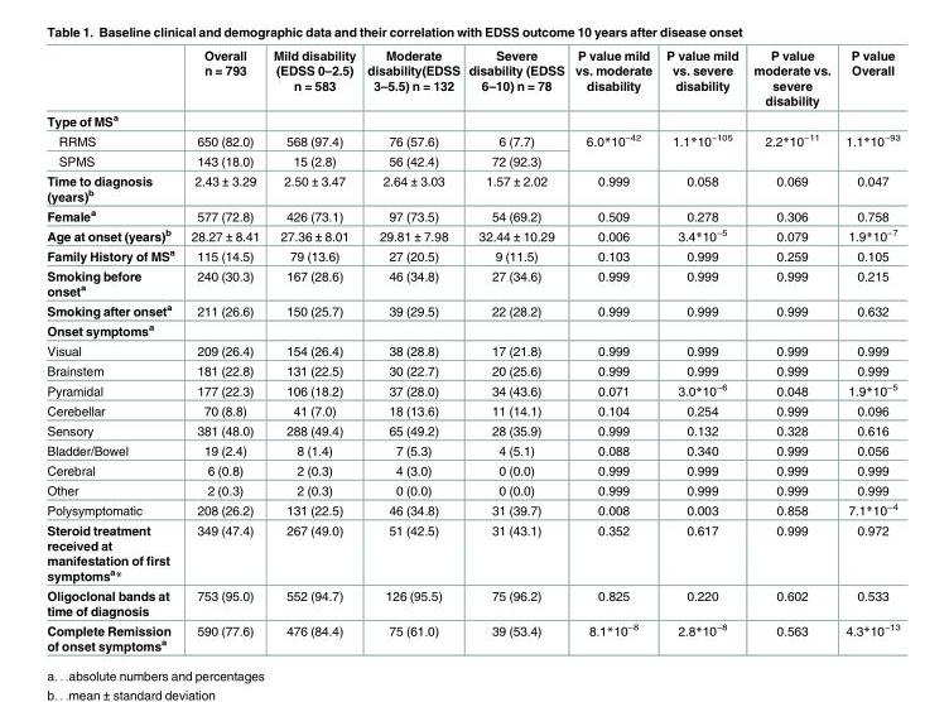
<table><thead><tr><td></td><td>Overall n = 793</td><td>Mild disability (EDSS 0–2.5) n = 583</td><td>Moderate disability(EDSS 3–5.5) n = 132</td><td>Severe disability (EDSS 6–10) n = 78</td><td>P value mild vs. moderate disability</td><td>P value mild vs. severe disability</td><td>P value moderate vs. severe disability</td><td>P value Overall</td></tr></thead><tbody><tr><td colspan="9">Type of MS<sup>a</sup></td></tr><tr><td>RRMS</td><td>650 (82.0)</td><td>568 (97.4)</td><td>76 (57.6)</td><td>6 (7.7)</td><td rowspan="2">6.0*10<sup>−42</sup></td><td rowspan="2">1.1*10<sup>−105</sup></td><td rowspan="2">2.2*10<sup>−11</sup></td><td rowspan="2">1.1*10<sup>−93</sup></td></tr><tr><td>SPMS</td><td>143 (18.0)</td><td>15 (2.8)</td><td>56 (42.4)</td><td>72 (92.3)</td></tr><tr><td>Time to diagnosis (years)<sup>b</sup></td><td>2.43 ± 3.29</td><td>2.50 ± 3.47</td><td>2.64 ± 3.03</td><td>1.57 ± 2.02</td><td>0.999</td><td>0.058</td><td>0.069</td><td>0.047</td></tr><tr><td>Female<sup>a</sup></td><td>577 (72.8)</td><td>426 (73.1)</td><td>97 (73.5)</td><td>54 (69.2)</td><td>0.509</td><td>0.278</td><td>0.306</td><td>0.758</td></tr><tr><td>Age at onset (years)<sup>b</sup></td><td>28.27 ± 8.41</td><td>27.36 ± 8.01</td><td>29.81 ± 7.98</td><td>32.44 ± 10.29</td><td>0.006</td><td>3.4*10<sup>−5</sup></td><td>0.079</td><td>1.9*10<sup>−7</sup></td></tr><tr><td>Family History of MS<sup>a</sup></td><td>115 (14.5)</td><td>79 (13.6)</td><td>27 (20.5)</td><td>9 (11.5)</td><td>0.103</td><td>0.999</td><td>0.259</td><td>0.105</td></tr><tr><td>Smoking before onset<sup>a</sup></td><td>240 (30.3)</td><td>167 (28.6)</td><td>46 (34.8)</td><td>27 (34.6)</td><td>0.999</td><td>0.999</td><td>0.999</td><td>0.215</td></tr><tr><td>Smoking after onset<sup>a</sup></td><td>211 (26.6)</td><td>150 (25.7)</td><td>39 (29.5)</td><td>22 (28.2)</td><td>0.999</td><td>0.999</td><td>0.999</td><td>0.632</td></tr><tr><td colspan="9">Onset symptoms<sup>a</sup></td></tr><tr><td>Visual</td><td>209 (26.4)</td><td>154 (26.4)</td><td>38 (28.8)</td><td>17 (21.8)</td><td>0.999</td><td>0.999</td><td>0.999</td><td>0.999</td></tr><tr><td>Brainstem</td><td>181 (22.8)</td><td>131 (22.5)</td><td>30 (22.7)</td><td>20 (25.6)</td><td>0.999</td><td>0.999</td><td>0.999</td><td>0.999</td></tr><tr><td>Pyramidal</td><td>177 (22.3)</td><td>106 (18.2)</td><td>37 (28.0)</td><td>34 (43.6)</td><td>0.071</td><td>3.0*10<sup>−6</sup></td><td>0.048</td><td>1.9*10<sup>−5</sup></td></tr><tr><td>Cerebellar</td><td>70 (8.8)</td><td>41 (7.0)</td><td>18 (13.6)</td><td>11 (14.1)</td><td>0.104</td><td>0.254</td><td>0.999</td><td>0.096</td></tr><tr><td>Sensory</td><td>381 (48.0)</td><td>288 (49.4)</td><td>65 (49.2)</td><td>28 (35.9)</td><td>0.999</td><td>0.132</td><td>0.328</td><td>0.616</td></tr><tr><td>Bladder/Bowel</td><td>19 (2.4)</td><td>8 (1.4)</td><td>7 (5.3)</td><td>4 (5.1)</td><td>0.088</td><td>0.340</td><td>0.999</td><td>0.056</td></tr><tr><td>Cerebral</td><td>6 (0.8)</td><td>2 (0.3)</td><td>4 (3.0)</td><td>0 (0.0)</td><td>0.999</td><td>0.999</td><td>0.999</td><td>0.999</td></tr><tr><td>Other</td><td>2 (0.3)</td><td>2 (0.3)</td><td>0 (0.0)</td><td>0 (0.0)</td><td>0.999</td><td>0.999</td><td>0.999</td><td>0.999</td></tr><tr><td>Polysymptomatic</td><td>208 (26.2)</td><td>131 (22.5)</td><td>46 (34.8)</td><td>31 (39.7)</td><td>0.008</td><td>0.003</td><td>0.858</td><td>7.1*10<sup>−4</sup></td></tr><tr><td>Steroid treatment received at manifestation of first symptoms<sup>a</sup>*</td><td>349 (47.4)</td><td>267 (49.0)</td><td>51 (42.5)</td><td>31 (43.1)</td><td>0.352</td><td>0.617</td><td>0.999</td><td>0.972</td></tr><tr><td>Oligoclonal bands at time of diagnosis</td><td>753 (95.0)</td><td>552 (94.7)</td><td>126 (95.5)</td><td>75 (96.2)</td><td>0.825</td><td>0.220</td><td>0.602</td><td>0.533</td></tr><tr><td>Complete Remission of onset symptoms<sup>a</sup></td><td>590 (77.6)</td><td>476 (84.4)</td><td>75 (61.0)</td><td>39 (53.4)</td><td>8.1*10<sup>−8</sup></td><td>2.8*10<sup>−8</sup></td><td>0.563</td><td>4.3*10<sup>−13</sup></td></tr></tbody></table>